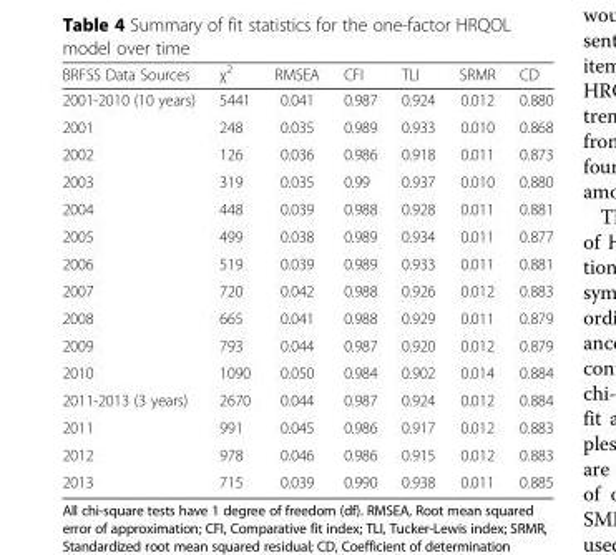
<table><thead><tr><td>BRFSS Data Sources</td><td>χ<sup>2</sup></td><td>RMSEA</td><td>CFI</td><td>TLI</td><td>SRMR</td><td>CD</td></tr></thead><tbody><tr><td>2001-2010 (10 years)</td><td>5441</td><td>0.041</td><td>0.987</td><td>0.924</td><td>0.012</td><td>0.880</td></tr><tr><td>2001</td><td>248</td><td>0.035</td><td>0.989</td><td>0.933</td><td>0.010</td><td>0.868</td></tr><tr><td>2002</td><td>126</td><td>0.036</td><td>0.986</td><td>0.918</td><td>0.011</td><td>0.873</td></tr><tr><td>2003</td><td>319</td><td>0.035</td><td>0.99</td><td>0.937</td><td>0.010</td><td>0.880</td></tr><tr><td>2004</td><td>448</td><td>0.039</td><td>0.988</td><td>0.928</td><td>0.011</td><td>0.881</td></tr><tr><td>2005</td><td>499</td><td>0.038</td><td>0.989</td><td>0.934</td><td>0.011</td><td>0.877</td></tr><tr><td>2006</td><td>519</td><td>0.039</td><td>0.989</td><td>0.933</td><td>0.011</td><td>0.881</td></tr><tr><td>2007</td><td>720</td><td>0.042</td><td>0.988</td><td>0.926</td><td>0.012</td><td>0.883</td></tr><tr><td>2008</td><td>665</td><td>0.041</td><td>0.988</td><td>0.929</td><td>0.011</td><td>0.879</td></tr><tr><td>2009</td><td>793</td><td>0.044</td><td>0.987</td><td>0.920</td><td>0.012</td><td>0.879</td></tr><tr><td>2010</td><td>1090</td><td>0.050</td><td>0.984</td><td>0.902</td><td>0.014</td><td>0.884</td></tr><tr><td>2011-2013 (3 years)</td><td>2670</td><td>0.044</td><td>0.987</td><td>0.924</td><td>0.012</td><td>0.884</td></tr><tr><td>2011</td><td>991</td><td>0.045</td><td>0.986</td><td>0.917</td><td>0.012</td><td>0.883</td></tr><tr><td>2012</td><td>978</td><td>0.046</td><td>0.986</td><td>0.915</td><td>0.012</td><td>0.883</td></tr><tr><td>2013</td><td>715</td><td>0.039</td><td>0.990</td><td>0.938</td><td>0.011</td><td>0.885</td></tr></tbody></table>